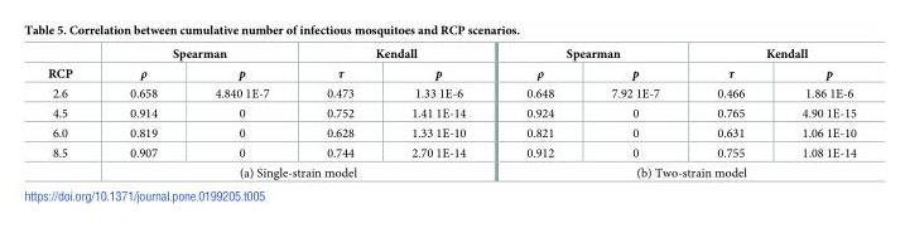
<table><thead><tr><td rowspan="2">RCP</td><td colspan="2">Spearman</td><td colspan="2">Kendall</td><td colspan="2">Spearman</td><td colspan="2">Kendall</td></tr><tr><td>ρ</td><td>p</td><td>τ</td><td>p</td><td>ρ</td><td>p</td><td>τ</td><td>p</td></tr></thead><tbody><tr><td>2.6</td><td>0.658</td><td>4.840 1E-7</td><td>0.473</td><td>1.33 1E-6</td><td>0.648</td><td>7.92 1E-7</td><td>0.466</td><td>1.86 1E-6</td></tr><tr><td>4.5</td><td>0.914</td><td>0</td><td>0.752</td><td>1.41 1E-14</td><td>0.924</td><td>0</td><td>0.765</td><td>4.90 1E-15</td></tr><tr><td>6.0</td><td>0.819</td><td>0</td><td>0.628</td><td>1.33 1E-10</td><td>0.821</td><td>0</td><td>0.631</td><td>1.06 1E-10</td></tr><tr><td rowspan="2">8.5</td><td>0.907</td><td>0</td><td>0.744</td><td>2.70 1E-14</td><td>0.912</td><td>0</td><td>0.755</td><td>1.08 1E-14</td></tr><tr><td colspan="4">(a) Single-strain model</td><td colspan="4">(b) Two-strain model</td></tr></tbody></table>